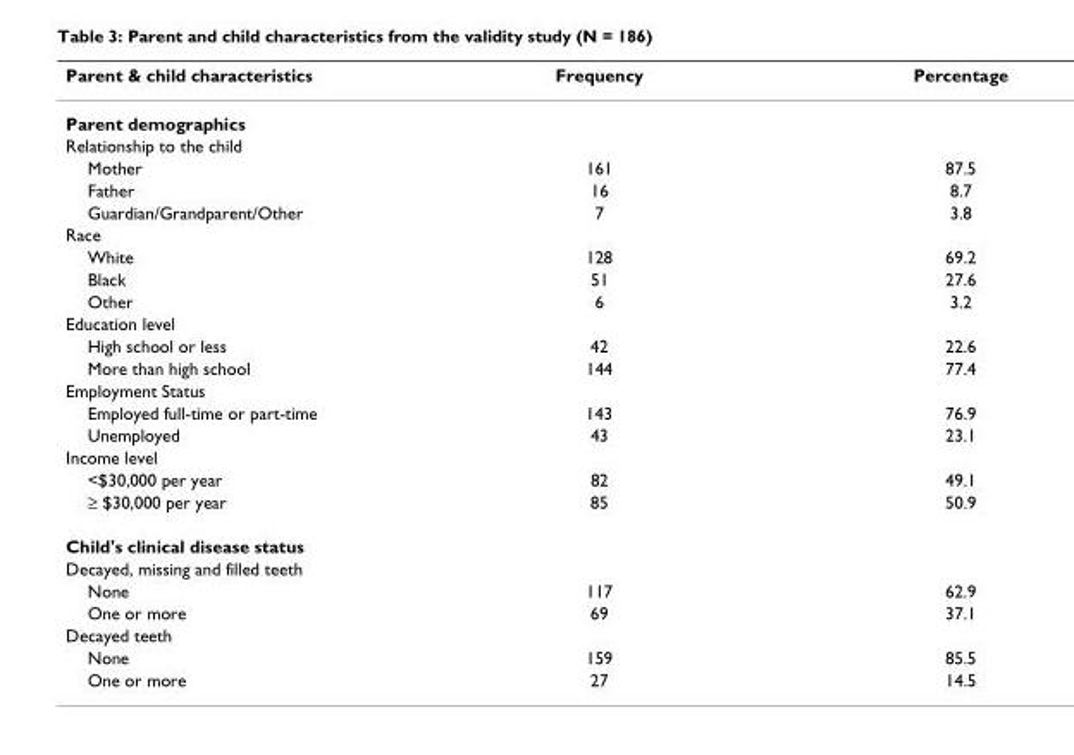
<table><thead><tr><td>Parent &amp; child characteristics</td><td>Frequency</td><td>Percentage</td></tr></thead><tbody><tr><td colspan="3">Parent demographics</td></tr><tr><td colspan="3">Relationship to the child</td></tr><tr><td>Mother</td><td>161</td><td>87.5</td></tr><tr><td>Father</td><td>16</td><td>8.7</td></tr><tr><td>Guardian/Grandparent/Other</td><td>7</td><td>3.8</td></tr><tr><td colspan="3">Race</td></tr><tr><td>White</td><td>128</td><td>69.2</td></tr><tr><td>Black</td><td>51</td><td>27.6</td></tr><tr><td>Other</td><td>6</td><td>3.2</td></tr><tr><td colspan="3">Education level</td></tr><tr><td>High school or less</td><td>42</td><td>22.6</td></tr><tr><td>More than high school</td><td>144</td><td>77.4</td></tr><tr><td colspan="3">Employment Status</td></tr><tr><td>Employed full-time or part-time</td><td>143</td><td>76.9</td></tr><tr><td>Unemployed</td><td>43</td><td>23.1</td></tr><tr><td colspan="3">Income level</td></tr><tr><td>&lt;$30,000 per year</td><td>82</td><td>49.1</td></tr><tr><td>≥ $30,000 per year</td><td>85</td><td>50.9</td></tr><tr><td colspan="3">Child&#x27;s clinical disease status</td></tr><tr><td colspan="3">Decayed, missing and filled teeth</td></tr><tr><td>None</td><td>117</td><td>62.9</td></tr><tr><td>One or more</td><td>69</td><td>37.1</td></tr><tr><td colspan="3">Decayed teeth</td></tr><tr><td>None</td><td>159</td><td>85.5</td></tr><tr><td>One or more</td><td>27</td><td>14.5</td></tr></tbody></table>